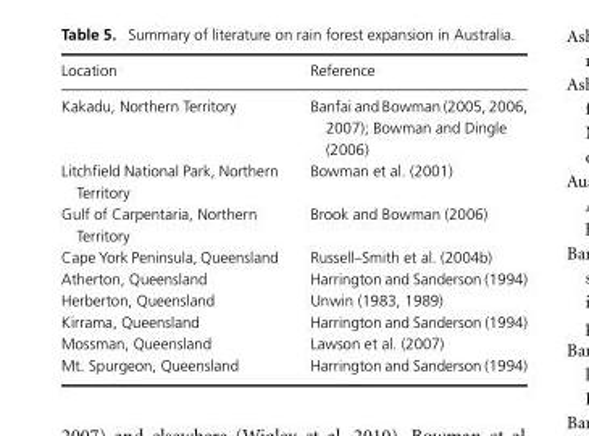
<table><thead><tr><td>Location</td><td>Reference</td></tr></thead><tbody><tr><td>Kakadu, Northern Territory</td><td>Banfai and Bowman (2005, 2006, 2007); Bowman and Dingle (2006)</td></tr><tr><td>Litchfield National Park, Northern Territory</td><td>Bowman et al. (2001)</td></tr><tr><td>Gulf of Carpentaria, Northern Territory</td><td>Brook and Bowman (2006)</td></tr><tr><td>Cape York Peninsula, Queensland</td><td>Russell–Smith et al. (2004b)</td></tr><tr><td>Atherton, Queensland</td><td>Harrington and Sanderson (1994)</td></tr><tr><td>Herberton, Queensland</td><td>Unwin (1983, 1989)</td></tr><tr><td>Kirrama, Queensland</td><td>Harrington and Sanderson (1994)</td></tr><tr><td>Mossman, Queensland</td><td>Lawson et al. (2007)</td></tr><tr><td>Mt. Spurgeon, Queensland</td><td>Harrington and Sanderson (1994)</td></tr></tbody></table>